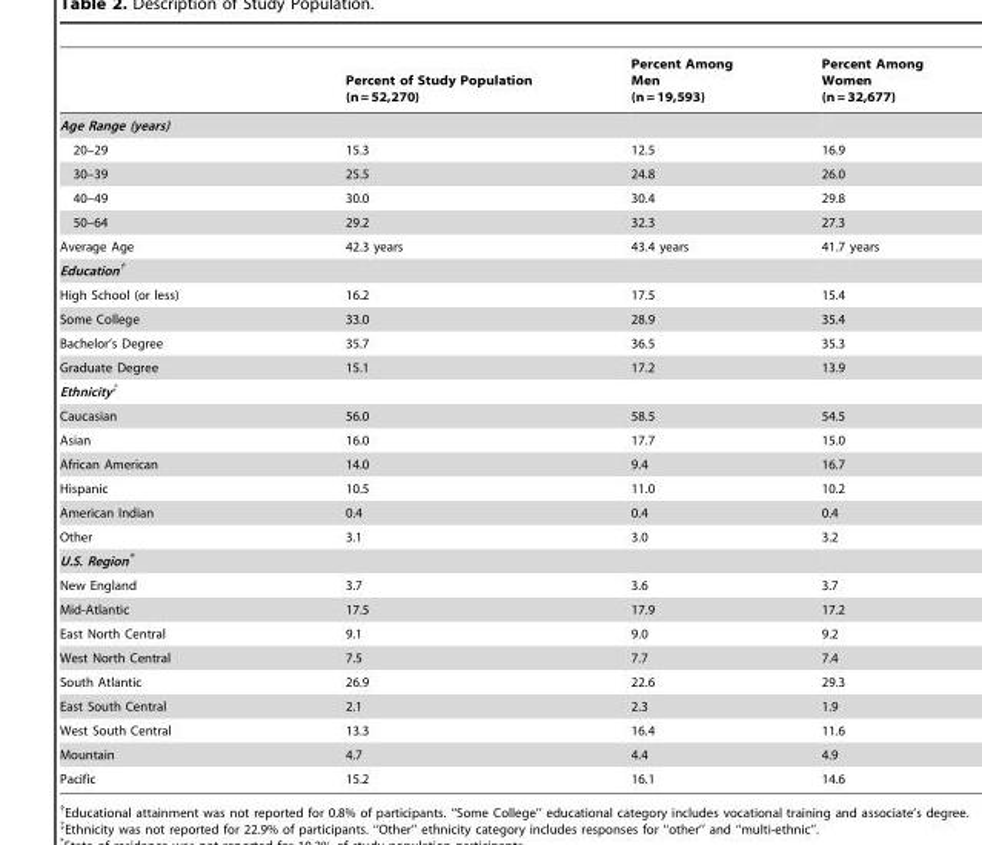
<table><thead><tr><td></td><td>Percent of Study Population (n = 52,270)</td><td>Percent Among Men (n = 19,593)</td><td>Percent Among Women (n = 32,677)</td></tr></thead><tbody><tr><td colspan="4">Age Range (years)</td></tr><tr><td>20–29</td><td>15.3</td><td>12.5</td><td>16.9</td></tr><tr><td>30–39</td><td>25.5</td><td>24.8</td><td>26.0</td></tr><tr><td>40–49</td><td>30.0</td><td>30.4</td><td>29.8</td></tr><tr><td>50–64</td><td>29.2</td><td>32.3</td><td>27.3</td></tr><tr><td>Average Age</td><td>42.3 years</td><td>43.4 years</td><td>41.7 years</td></tr><tr><td colspan="4">Education†</td></tr><tr><td>High School (or less)</td><td>16.2</td><td>17.5</td><td>15.4</td></tr><tr><td>Some College</td><td>33.0</td><td>28.9</td><td>35.4</td></tr><tr><td>Bachelor’s Degree</td><td>35.7</td><td>36.5</td><td>35.3</td></tr><tr><td>Graduate Degree</td><td>15.1</td><td>17.2</td><td>13.9</td></tr><tr><td colspan="4">Ethnicity‡</td></tr><tr><td>Caucasian</td><td>56.0</td><td>58.5</td><td>54.5</td></tr><tr><td>Asian</td><td>16.0</td><td>17.7</td><td>15.0</td></tr><tr><td>African American</td><td>14.0</td><td>9.4</td><td>16.7</td></tr><tr><td>Hispanic</td><td>10.5</td><td>11.0</td><td>10.2</td></tr><tr><td>American Indian</td><td>0.4</td><td>0.4</td><td>0.4</td></tr><tr><td>Other</td><td>3.1</td><td>3.0</td><td>3.2</td></tr><tr><td colspan="4">U.S. Region*</td></tr><tr><td>New England</td><td>3.7</td><td>3.6</td><td>3.7</td></tr><tr><td>Mid-Atlantic</td><td>17.5</td><td>17.9</td><td>17.2</td></tr><tr><td>East North Central</td><td>9.1</td><td>9.0</td><td>9.2</td></tr><tr><td>West North Central</td><td>7.5</td><td>7.7</td><td>7.4</td></tr><tr><td>South Atlantic</td><td>26.9</td><td>22.6</td><td>29.3</td></tr><tr><td>East South Central</td><td>2.1</td><td>2.3</td><td>1.9</td></tr><tr><td>West South Central</td><td>13.3</td><td>16.4</td><td>11.6</td></tr><tr><td>Mountain</td><td>4.7</td><td>4.4</td><td>4.9</td></tr><tr><td>Pacific</td><td>15.2</td><td>16.1</td><td>14.6</td></tr></tbody></table>